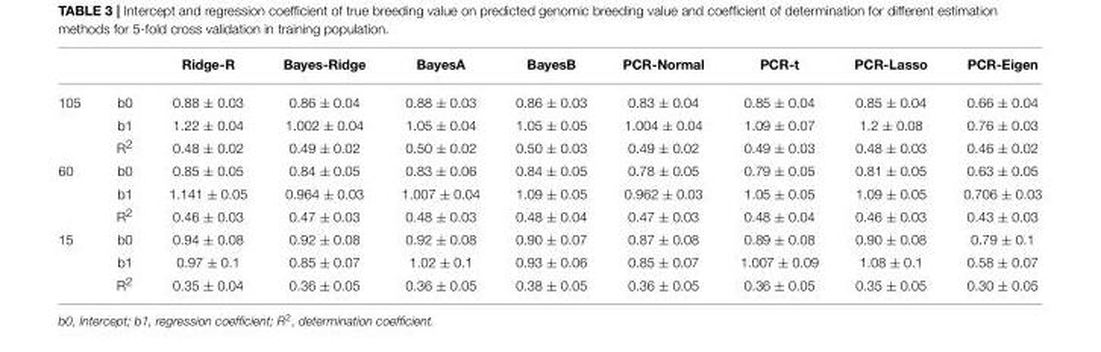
<table><thead><tr><td></td><td></td><td>Ridge-R</td><td>Bayes-Ridge</td><td>BayesA</td><td>BayesB</td><td>PCR-Normal</td><td>PCR-t</td><td>PCR-Lasso</td><td>PCR-Eigen</td></tr></thead><tbody><tr><td rowspan="3">105</td><td>b0</td><td>0.88 ± 0.03</td><td>0.86 ± 0.04</td><td>0.88 ± 0.03</td><td>0.86 ± 0.03</td><td>0.83 ± 0.04</td><td>0.85 ± 0.04</td><td>0.85 ± 0.04</td><td>0.66 ± 0.04</td></tr><tr><td>b1</td><td>1.22 ± 0.04</td><td>1.002 ± 0.04</td><td>1.05 ± 0.04</td><td>1.05 ± 0.05</td><td>1.004 ± 0.04</td><td>1.09 ± 0.07</td><td>1.2 ± 0.08</td><td>0.76 ± 0.03</td></tr><tr><td>R<sup>2</sup></td><td>0.48 ± 0.02</td><td>0.49 ± 0.02</td><td>0.50 ± 0.02</td><td>0.50 ± 0.03</td><td>0.49 ± 0.02</td><td>0.49 ± 0.03</td><td>0.48 ± 0.03</td><td>0.46 ± 0.02</td></tr><tr><td rowspan="3">60</td><td>b0</td><td>0.85 ± 0.05</td><td>0.84 ± 0.05</td><td>0.83 ± 0.06</td><td>0.84 ± 0.05</td><td>0.78 ± 0.05</td><td>0.79 ± 0.05</td><td>0.81 ± 0.05</td><td>0.63 ± 0.05</td></tr><tr><td>b1</td><td>1.141 ± 0.05</td><td>0.964 ± 0.03</td><td>1.007 ± 0.04</td><td>1.09 ± 0.05</td><td>0.962 ± 0.03</td><td>1.05 ± 0.05</td><td>1.09 ± 0.05</td><td>0.706 ± 0.03</td></tr><tr><td>R<sup>2</sup></td><td>0.46 ± 0.03</td><td>0.47 ± 0.03</td><td>0.48 ± 0.03</td><td>0.48 ± 0.04</td><td>0.47 ± 0.03</td><td>0.48 ± 0.04</td><td>0.46 ± 0.03</td><td>0.43 ± 0.03</td></tr><tr><td rowspan="3">15</td><td>b0</td><td>0.94 ± 0.08</td><td>0.92 ± 0.08</td><td>0.92 ± 0.08</td><td>0.90 ± 0.07</td><td>0.87 ± 0.08</td><td>0.89 ± 0.08</td><td>0.90 ± 0.08</td><td>0.79 ± 0.1</td></tr><tr><td>b1</td><td>0.97 ± 0.1</td><td>0.85 ± 0.07</td><td>1.02 ± 0.1</td><td>0.93 ± 0.06</td><td>0.85 ± 0.07</td><td>1.007 ± 0.09</td><td>1.08 ± 0.1</td><td>0.58 ± 0.07</td></tr><tr><td>R<sup>2</sup></td><td>0.35 ± 0.04</td><td>0.36 ± 0.05</td><td>0.36 ± 0.05</td><td>0.38 ± 0.05</td><td>0.36 ± 0.05</td><td>0.36 ± 0.05</td><td>0.35 ± 0.05</td><td>0.30 ± 0.05</td></tr></tbody></table>